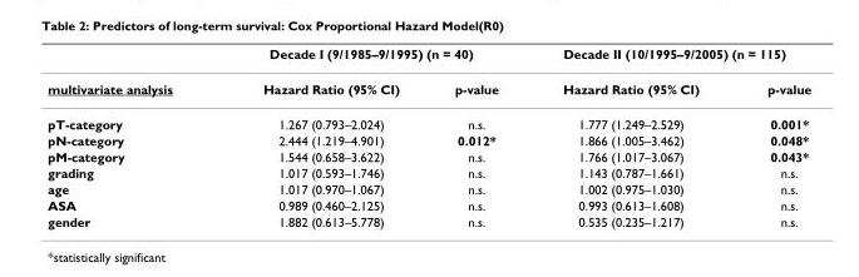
<table><thead><tr><td rowspan="2">multivariate analysis</td><td colspan="2">Decade I (9/1985–9/1995) (n = 40)</td><td colspan="2">Decade II (10/1995–9/2005) (n = 115)</td></tr><tr><td>Hazard Ratio (95% CI)</td><td>p-value</td><td>Hazard Ratio (95% CI)</td><td>p-value</td></tr></thead><tbody><tr><td>pT-category</td><td>1.267 (0.793–2.024)</td><td>n.s.</td><td>1.777 (1.249–2.529)</td><td>0.001*</td></tr><tr><td>pN-category</td><td>2.444 (1.219–4.901)</td><td>0.012*</td><td>1.866 (1.005–3.462)</td><td>0.048*</td></tr><tr><td>pM-category</td><td>1.544 (0.658–3.622)</td><td>n.s.</td><td>1.766 (1.017–3.067)</td><td>0.043*</td></tr><tr><td>grading</td><td>1.017 (0.593–1.746)</td><td>n.s.</td><td>1.143 (0.787–1.661)</td><td>n.s.</td></tr><tr><td>age</td><td>1.017 (0.970–1.067)</td><td>n.s.</td><td>1.002 (0.975–1.030)</td><td>n.s.</td></tr><tr><td>ASA</td><td>0.989 (0.460–2.125)</td><td>n.s.</td><td>0.993 (0.613–1.608)</td><td>n.s.</td></tr><tr><td>gender</td><td>1.882 (0.613–5.778)</td><td>n.s.</td><td>0.535 (0.235–1.217)</td><td>n.s.</td></tr></tbody></table>